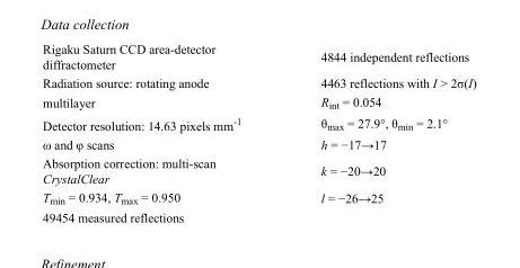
<table><tbody><tr><td>Rigaku Saturn CCD area-detector diffractometer</td><td>4844 independent reflections</td></tr><tr><td>Radiation source: rotating anode</td><td>4463 reflections with I &gt; 2σ(I)</td></tr><tr><td>multilayer</td><td>R<sub>int</sub> = 0.054</td></tr><tr><td>Detector resolution: 14.63 pixels mm<sup>-1</sup></td><td>θ<sub>max</sub> = 27.9°, θ<sub>min</sub> = 2.1°</td></tr><tr><td>ω and φ scans</td><td>h = −17→17</td></tr><tr><td>Absorption correction: multi-scan CrystalClear</td><td>k = −20→20</td></tr><tr><td>T<sub>min</sub> = 0.934, T<sub>max</sub> = 0.950</td><td>l = −26→25</td></tr><tr><td>49454 measured reflections</td><td></td></tr></tbody></table>